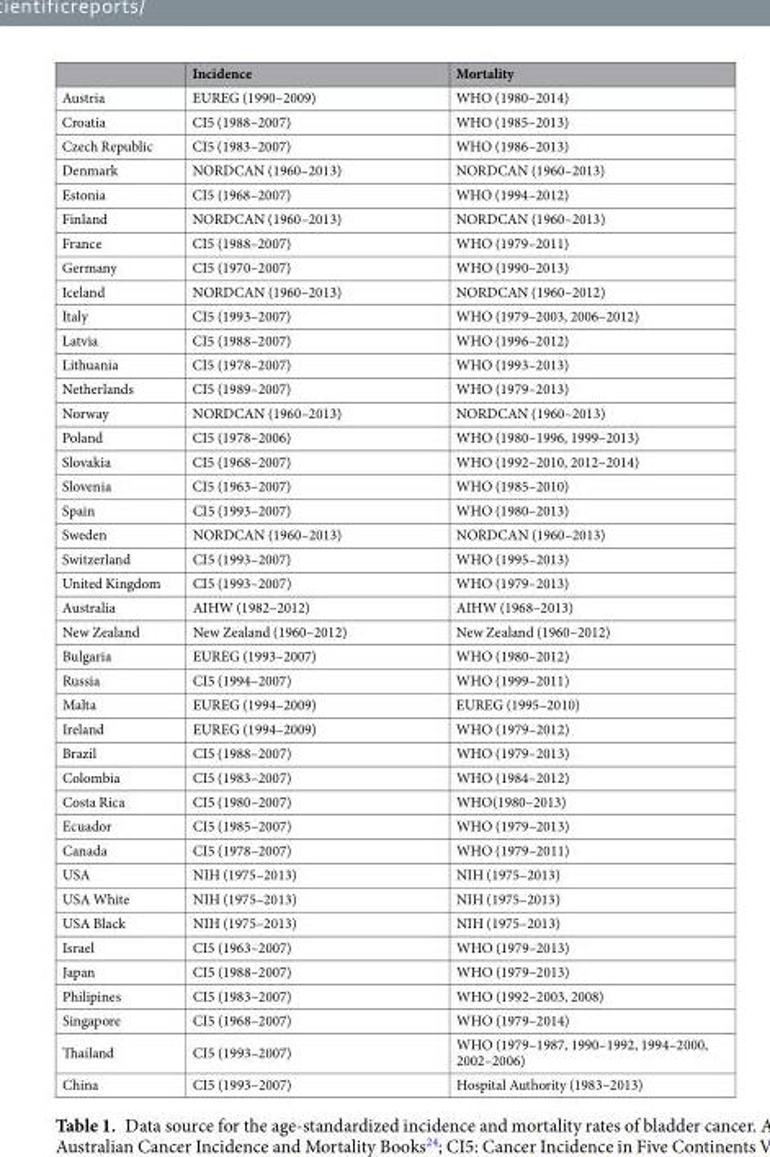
<table><thead><tr><td></td><td>Incidence</td><td>Mortality</td></tr></thead><tbody><tr><td>Austria</td><td>EUREG (1990–2009)</td><td>WHO (1980–2014)</td></tr><tr><td>Croatia</td><td>CI5 (1988–2007)</td><td>WHO (1985–2013)</td></tr><tr><td>Czech Republic</td><td>CI5 (1983–2007)</td><td>WHO (1986–2013)</td></tr><tr><td>Denmark</td><td>NORDCAN (1960–2013)</td><td>NORDCAN (1960–2013)</td></tr><tr><td>Estonia</td><td>CI5 (1968–2007)</td><td>WHO (1994–2012)</td></tr><tr><td>Finland</td><td>NORDCAN (1960–2013)</td><td>NORDCAN (1960–2013)</td></tr><tr><td>France</td><td>CI5 (1988–2007)</td><td>WHO (1979–2011)</td></tr><tr><td>Germany</td><td>CI5 (1970–2007)</td><td>WHO (1990–2013)</td></tr><tr><td>Iceland</td><td>NORDCAN (1960–2013)</td><td>NORDCAN (1960–2012)</td></tr><tr><td>Italy</td><td>CI5 (1993–2007)</td><td>WHO (1979–2003, 2006–2012)</td></tr><tr><td>Latvia</td><td>CI5 (1988–2007)</td><td>WHO (1996–2012)</td></tr><tr><td>Lithuania</td><td>CI5 (1978–2007)</td><td>WHO (1993–2013)</td></tr><tr><td>Netherlands</td><td>CI5 (1989–2007)</td><td>WHO (1979–2013)</td></tr><tr><td>Norway</td><td>NORDCAN (1960–2013)</td><td>NORDCAN (1960–2013)</td></tr><tr><td>Poland</td><td>CI5 (1978–2006)</td><td>WHO (1980–1996, 1999–2013)</td></tr><tr><td>Slovakia</td><td>CI5 (1968–2007)</td><td>WHO (1992–2010, 2012–2014)</td></tr><tr><td>Slovenia</td><td>CI5 (1963–2007)</td><td>WHO (1985–2010)</td></tr><tr><td>Spain</td><td>CI5 (1993–2007)</td><td>WHO (1980–2013)</td></tr><tr><td>Sweden</td><td>NORDCAN (1960–2013)</td><td>NORDCAN (1960–2013)</td></tr><tr><td>Switzerland</td><td>CI5 (1993–2007)</td><td>WHO (1995–2013)</td></tr><tr><td>United Kingdom</td><td>CI5 (1993–2007)</td><td>WHO (1979–2013)</td></tr><tr><td>Australia</td><td>AIHW (1982–2012)</td><td>AIHW (1968–2013)</td></tr><tr><td>New Zealand</td><td>New Zealand (1960–2012)</td><td>New Zealand (1960–2012)</td></tr><tr><td>Bulgaria</td><td>EUREG (1993–2007)</td><td>WHO (1980–2012)</td></tr><tr><td>Russia</td><td>CI5 (1994–2007)</td><td>WHO (1999–2011)</td></tr><tr><td>Malta</td><td>EUREG (1994–2009)</td><td>EUREG (1995–2010)</td></tr><tr><td>Ireland</td><td>EUREG (1994–2009)</td><td>WHO (1979–2012)</td></tr><tr><td>Brazil</td><td>CI5 (1988–2007)</td><td>WHO (1979–2013)</td></tr><tr><td>Colombia</td><td>CI5 (1983–2007)</td><td>WHO (1984–2012)</td></tr><tr><td>Costa Rica</td><td>CI5 (1980–2007)</td><td>WHO(1980–2013)</td></tr><tr><td>Ecuador</td><td>CI5 (1985–2007)</td><td>WHO (1979–2013)</td></tr><tr><td>Canada</td><td>CI5 (1978–2007)</td><td>WHO (1979–2011)</td></tr><tr><td>USA</td><td>NIH (1975–2013)</td><td>NIH (1975–2013)</td></tr><tr><td>USA White</td><td>NIH (1975–2013)</td><td>NIH (1975–2013)</td></tr><tr><td>USA Black</td><td>NIH (1975–2013)</td><td>NIH (1975–2013)</td></tr><tr><td>Israel</td><td>CI5 (1963–2007)</td><td>WHO (1979–2013)</td></tr><tr><td>Japan</td><td>CI5 (1988–2007)</td><td>WHO (1979–2013)</td></tr><tr><td>Philipines</td><td>CI5 (1983–2007)</td><td>WHO (1992–2003, 2008)</td></tr><tr><td>Singapore</td><td>CI5 (1968–2007)</td><td>WHO (1979–2014)</td></tr><tr><td>Thailand</td><td>CI5 (1993–2007)</td><td>WHO (1979–1987, 1990–1992, 1994–2000, 2002–2006)</td></tr><tr><td>China</td><td>CI5 (1993–2007)</td><td>Hospital Authority (1983–2013)</td></tr></tbody></table>